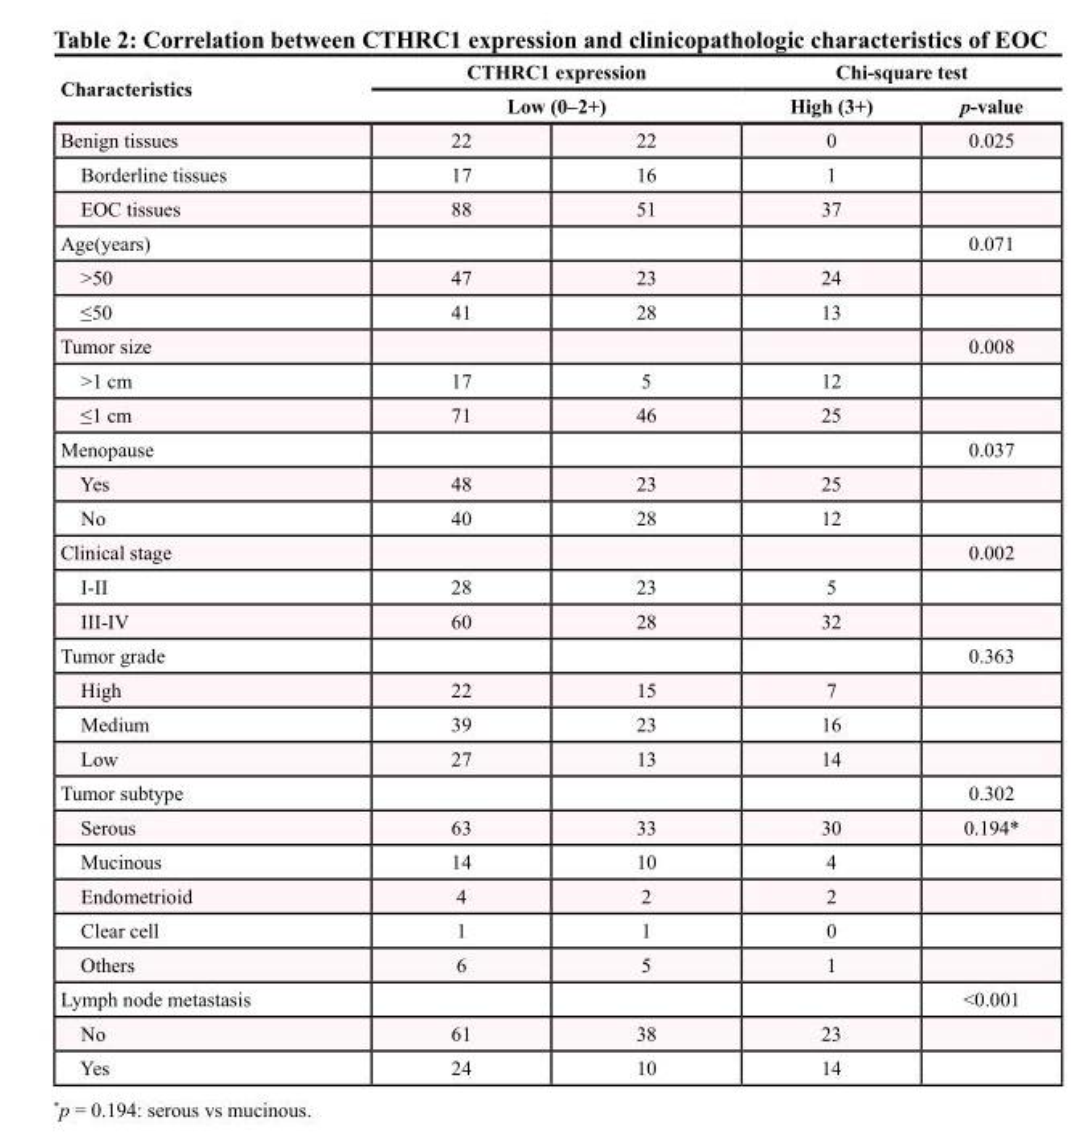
<table><thead><tr><td rowspan="3">Characteristics Benign tissues</td><td rowspan="2" colspan="2">CTHRC1 expression Low (0–2+)</td><td colspan="2">Chi-square test</td></tr><tr><td rowspan="2">High (3+) 0</td><td rowspan="2">p-value 0.025</td></tr><tr><td>22</td><td>22</td></tr></thead><tbody><tr><td>Borderline tissues</td><td>17</td><td>16</td><td>1</td><td></td></tr><tr><td>EOC tissues</td><td>88</td><td>51</td><td>37</td><td></td></tr><tr><td>Age(years)</td><td></td><td></td><td></td><td>0.071</td></tr><tr><td>&gt;50</td><td>47</td><td>23</td><td>24</td><td></td></tr><tr><td>≤50</td><td>41</td><td>28</td><td>13</td><td></td></tr><tr><td>Tumor size</td><td></td><td></td><td></td><td>0.008</td></tr><tr><td>&gt;1 cm</td><td>17</td><td>5</td><td>12</td><td></td></tr><tr><td>≤1 cm</td><td>71</td><td>46</td><td>25</td><td></td></tr><tr><td>Menopause</td><td></td><td></td><td></td><td>0.037</td></tr><tr><td>Yes</td><td>48</td><td>23</td><td>25</td><td></td></tr><tr><td>No</td><td>40</td><td>28</td><td>12</td><td></td></tr><tr><td>Clinical stage</td><td></td><td></td><td></td><td>0.002</td></tr><tr><td>I-II</td><td>28</td><td>23</td><td>5</td><td></td></tr><tr><td>III-IV</td><td>60</td><td>28</td><td>32</td><td></td></tr><tr><td>Tumor grade</td><td></td><td></td><td></td><td>0.363</td></tr><tr><td>High</td><td>22</td><td>15</td><td>7</td><td></td></tr><tr><td>Medium</td><td>39</td><td>23</td><td>16</td><td></td></tr><tr><td>Low</td><td>27</td><td>13</td><td>14</td><td></td></tr><tr><td>Tumor subtype</td><td></td><td></td><td></td><td>0.302</td></tr><tr><td>Serous</td><td>63</td><td>33</td><td>30</td><td>0.194*</td></tr><tr><td>Mucinous</td><td>14</td><td>10</td><td>4</td><td></td></tr><tr><td>Endometrioid</td><td>4</td><td>2</td><td>2</td><td></td></tr><tr><td>Clear cell</td><td>1</td><td>1</td><td>0</td><td></td></tr><tr><td>Others</td><td>6</td><td>5</td><td>1</td><td></td></tr><tr><td>Lymph node metastasis</td><td></td><td></td><td></td><td>&lt;0.001</td></tr><tr><td>No</td><td>61</td><td>38</td><td>23</td><td></td></tr><tr><td>Yes</td><td>24</td><td>10</td><td>14</td><td></td></tr></tbody></table>